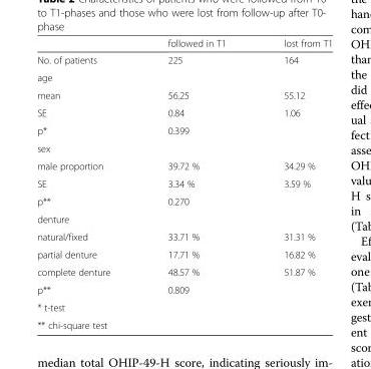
<table><thead><tr><td></td><td>followed in T1</td><td>lost from T1</td></tr></thead><tbody><tr><td>No. of patients</td><td>225</td><td>164</td></tr><tr><td colspan="3">age</td></tr><tr><td>mean</td><td>56.25</td><td>55.12</td></tr><tr><td>SE</td><td>0.84</td><td>1.06</td></tr><tr><td>p*</td><td>0.399</td><td></td></tr><tr><td colspan="3">sex</td></tr><tr><td>male proportion</td><td>39.72 %</td><td>34.29 %</td></tr><tr><td>SE</td><td>3.34 %</td><td>3.59 %</td></tr><tr><td>p**</td><td>0.270</td><td></td></tr><tr><td colspan="3">denture</td></tr><tr><td>natural/fixed</td><td>33.71 %</td><td>31.31 %</td></tr><tr><td>partial denture</td><td>17.71 %</td><td>16.82 %</td></tr><tr><td>complete denture</td><td>48.57 %</td><td>51.87 %</td></tr><tr><td>p**</td><td>0.809</td><td></td></tr><tr><td colspan="3">* t-test</td></tr><tr><td>** chi-square test</td><td></td><td></td></tr></tbody></table>